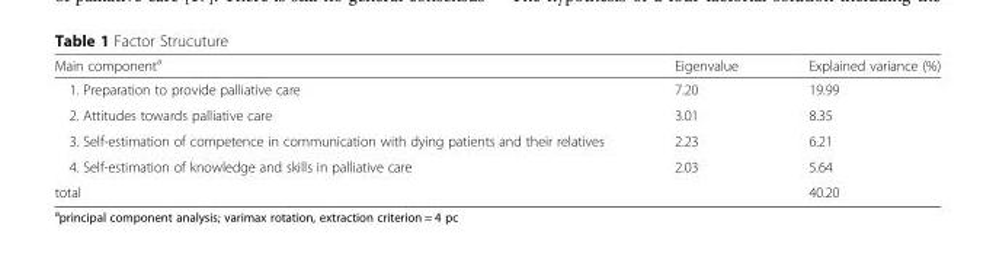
<table><thead><tr><td>Main component<sup>a</sup></td><td>Eigenvalue</td><td>Explained variance (%)</td></tr></thead><tbody><tr><td>1. Preparation to provide palliative care</td><td>7.20</td><td>19.99</td></tr><tr><td>2. Attitudes towards palliative care</td><td>3.01</td><td>8.35</td></tr><tr><td>3. Self-estimation of competence in communication with dying patients and their relatives</td><td>2.23</td><td>6.21</td></tr><tr><td>4. Self-estimation of knowledge and skills in palliative care</td><td>2.03</td><td>5.64</td></tr><tr><td>total</td><td></td><td>40.20</td></tr></tbody></table>